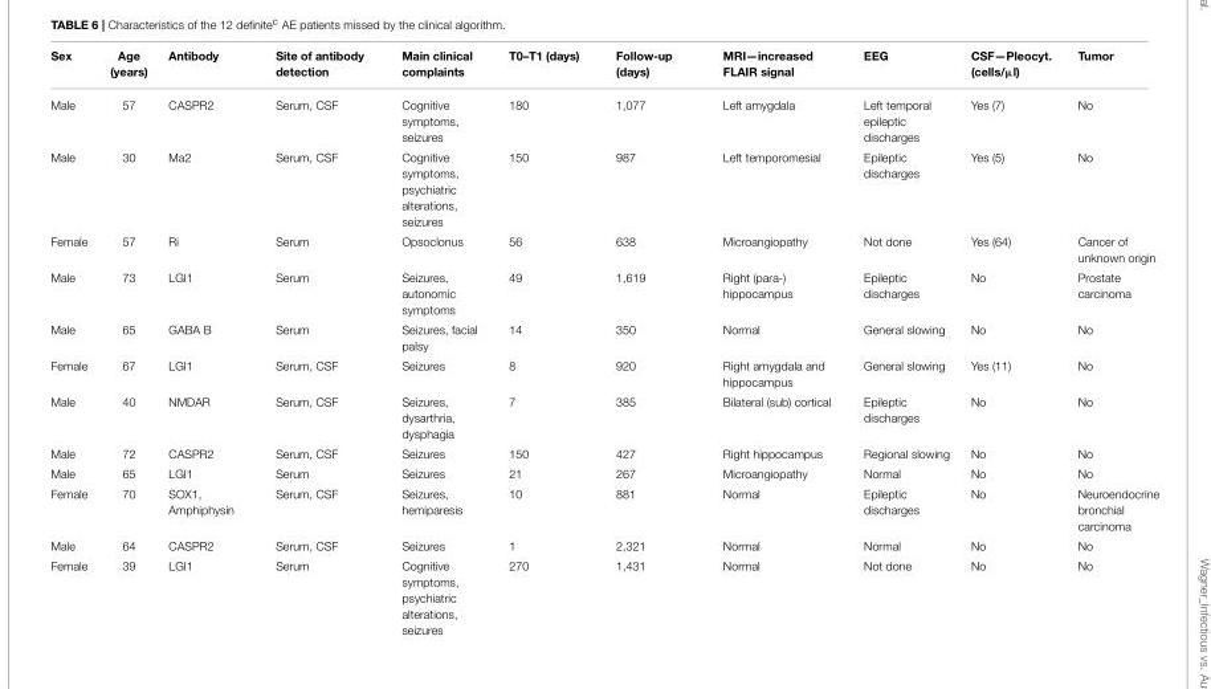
<table><thead><tr><td>Sex</td><td>Age (years)</td><td>Antibody</td><td>Site of antibody detection</td><td>Main clinical complaints</td><td>T0–T1 (days)</td><td>Follow-up (days)</td><td>MRI—increased FLAIR signal</td><td>EEG</td><td>CSF—Pleocyt. (cells/µl)</td><td>Tumor</td></tr></thead><tbody><tr><td>Male</td><td>57</td><td>CASPR2</td><td>Serum, CSF</td><td>Cognitive symptoms, seizures</td><td>180</td><td>1,077</td><td>Left amygdala</td><td>Left temporal epileptic discharges</td><td>Yes (7)</td><td>No</td></tr><tr><td>Male</td><td>30</td><td>Ma2</td><td>Serum, CSF</td><td>Cognitive symptoms, psychiatric alterations, seizures</td><td>150</td><td>987</td><td>Left temporomesial</td><td>Epileptic discharges</td><td>Yes (5)</td><td>No</td></tr><tr><td>Female</td><td>57</td><td>Ri</td><td>Serum</td><td>Opsoclonus</td><td>56</td><td>638</td><td>Microangiopathy</td><td>Not done</td><td>Yes (64)</td><td>Cancer of unknown origin</td></tr><tr><td>Male</td><td>73</td><td>LGI1</td><td>Serum</td><td>Seizures, autonomic symptoms</td><td>49</td><td>1,619</td><td>Right (para-) hippocampus</td><td>Epileptic discharges</td><td>No</td><td>Prostate carcinoma</td></tr><tr><td>Male</td><td>65</td><td>GABA B</td><td>Serum</td><td>Seizures, facial palsy</td><td>14</td><td>350</td><td>Normal</td><td>General slowing</td><td>No</td><td>No</td></tr><tr><td>Female</td><td>67</td><td>LGI1</td><td>Serum, CSF</td><td>Seizures</td><td>8</td><td>920</td><td>Right amygdala and hippocampus</td><td>General slowing</td><td>Yes (11)</td><td>No</td></tr><tr><td>Male</td><td>40</td><td>NMDAR</td><td>Serum, CSF</td><td>Seizures, dysarthria, dysphagia</td><td>7</td><td>385</td><td>Bilateral (sub) cortical</td><td>Epileptic discharges</td><td>No</td><td>No</td></tr><tr><td>Male</td><td>72</td><td>CASPR2</td><td>Serum, CSF</td><td>Seizures</td><td>150</td><td>427</td><td>Right hippocampus</td><td>Regional slowing</td><td>No</td><td>No</td></tr><tr><td>Male</td><td>65</td><td>LGI1</td><td>Serum</td><td>Seizures</td><td>21</td><td>267</td><td>Microangiopathy</td><td>Normal</td><td>No</td><td>No</td></tr><tr><td>Female</td><td>70</td><td>SOX1, Amphiphysin</td><td>Serum, CSF</td><td>Seizures, hemiparesis</td><td>10</td><td>881</td><td>Normal</td><td>Epileptic discharges</td><td>No</td><td>Neuroendocrine bronchial carcinoma</td></tr><tr><td>Male</td><td>64</td><td>CASPR2</td><td>Serum, CSF</td><td>Seizures</td><td>1</td><td>2,321</td><td>Normal</td><td>Normal</td><td>No</td><td>No</td></tr><tr><td>Female</td><td>39</td><td>LGI1</td><td>Serum</td><td>Cognitive symptoms, psychiatric alterations, seizures</td><td>270</td><td>1,431</td><td>Normal</td><td>Not done</td><td>No</td><td>No</td></tr></tbody></table>